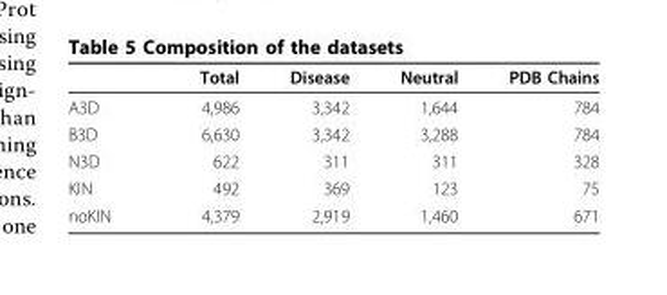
<table><thead><tr><td></td><td>Total</td><td>Disease</td><td>Neutral</td><td>PDB Chains</td></tr></thead><tbody><tr><td>A3D</td><td>4,986</td><td>3,342</td><td>1,644</td><td>784</td></tr><tr><td>B3D</td><td>6,630</td><td>3,342</td><td>3,288</td><td>784</td></tr><tr><td>N3D</td><td>622</td><td>311</td><td>311</td><td>328</td></tr><tr><td>KIN</td><td>492</td><td>369</td><td>123</td><td>75</td></tr><tr><td>noKIN</td><td>4,379</td><td>2,919</td><td>1,460</td><td>671</td></tr></tbody></table>